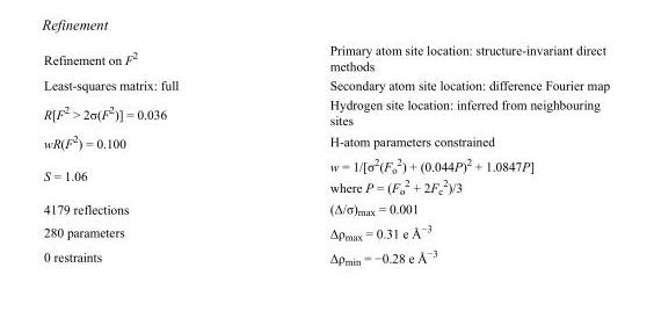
<table><tbody><tr><td>Refinement on F<sup>2</sup></td><td>Primary atom site location: structure-invariant direct methods</td></tr><tr><td>Least-squares matrix: full</td><td>Secondary atom site location: difference Fourier map</td></tr><tr><td>R[F<sup>2</sup> &gt; 2σ(F<sup>2</sup>)] = 0.036</td><td>Hydrogen site location: inferred from neighbouring sites</td></tr><tr><td>wR(F<sup>2</sup>) = 0.100</td><td>H-atom parameters constrained</td></tr><tr><td>S = 1.06</td><td>w = 1/[σ<sup>2</sup>(F<sub>o</sub> <sup>2</sup>) + (0.044P)<sup>2</sup> + 1.0847P] where P = (F<sub>o</sub> <sup>2</sup> + 2F<sub>c</sub> <sup>2</sup>)/3</td></tr><tr><td>4179 reflections</td><td>(Δ/σ)<sub>max</sub> = 0.001</td></tr><tr><td>280 parameters</td><td>Δρ<sub>max</sub> = 0.31 e Å<sup>−3</sup></td></tr><tr><td>0 restraints</td><td>Δρ<sub>min</sub> = −0.28 e Å<sup>−3</sup></td></tr></tbody></table>